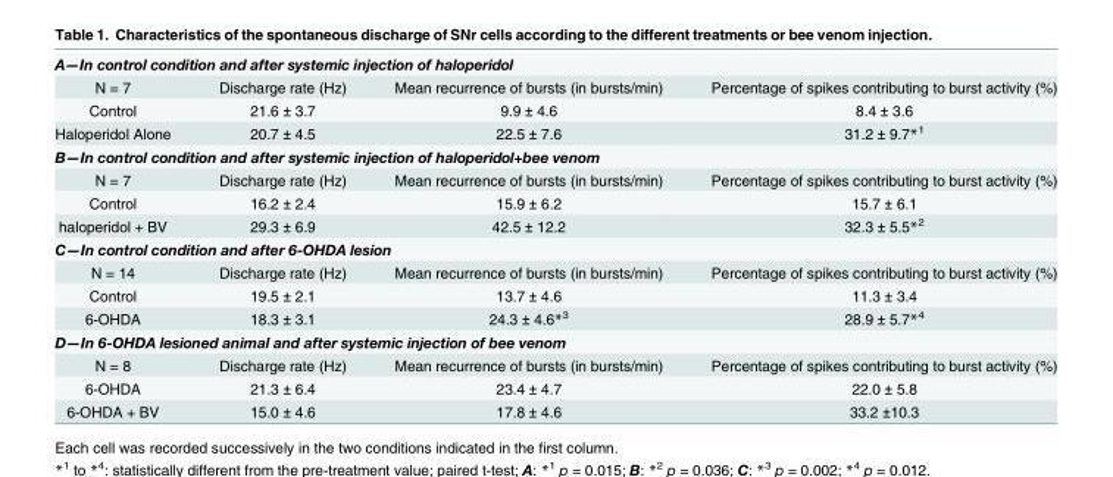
<table><tbody><tr><td colspan="4">A—In control condition and after systemic injection of haloperidol</td></tr><tr><td>N = 7</td><td>Discharge rate (Hz)</td><td>Mean recurrence of bursts (in bursts/min)</td><td>Percentage of spikes contributing to burst activity (%)</td></tr><tr><td>Control</td><td>21.6 ± 3.7</td><td>9.9 ± 4.6</td><td>8.4 ± 3.6</td></tr><tr><td>Haloperidol Alone</td><td>20.7 ± 4.5</td><td>22.5 ± 7.6</td><td>31.2 ± 9.7*<sup>1</sup></td></tr><tr><td colspan="4">B—In control condition and after systemic injection of haloperidol+bee venom</td></tr><tr><td>N = 7</td><td>Discharge rate (Hz)</td><td>Mean recurrence of bursts (in bursts/min)</td><td>Percentage of spikes contributing to burst activity (%)</td></tr><tr><td>Control</td><td>16.2 ± 2.4</td><td>15.9 ± 6.2</td><td>15.7 ± 6.1</td></tr><tr><td>haloperidol + BV</td><td>29.3 ± 6.9</td><td>42.5 ± 12.2</td><td>32.3 ± 5.5*<sup>2</sup></td></tr><tr><td colspan="4">C—In control condition and after 6-OHDA lesion</td></tr><tr><td>N = 14</td><td>Discharge rate (Hz)</td><td>Mean recurrence of bursts (in bursts/min)</td><td>Percentage of spikes contributing to burst activity (%)</td></tr><tr><td>Control</td><td>19.5 ± 2.1</td><td>13.7 ± 4.6</td><td>11.3 ± 3.4</td></tr><tr><td>6-OHDA</td><td>18.3 ± 3.1</td><td>24.3 ± 4.6*<sup>3</sup></td><td>28.9 ± 5.7*<sup>4</sup></td></tr><tr><td colspan="4">D—In 6-OHDA lesioned animal and after systemic injection of bee venom</td></tr><tr><td>N = 8</td><td>Discharge rate (Hz)</td><td>Mean recurrence of bursts (in bursts/min)</td><td>Percentage of spikes contributing to burst activity (%)</td></tr><tr><td>6-OHDA</td><td>21.3 ± 6.4</td><td>23.4 ± 4.7</td><td>22.0 ± 5.8</td></tr><tr><td>6-OHDA + BV</td><td>15.0 ± 4.6</td><td>17.8 ± 4.6</td><td>33.2 ±10.3</td></tr></tbody></table>